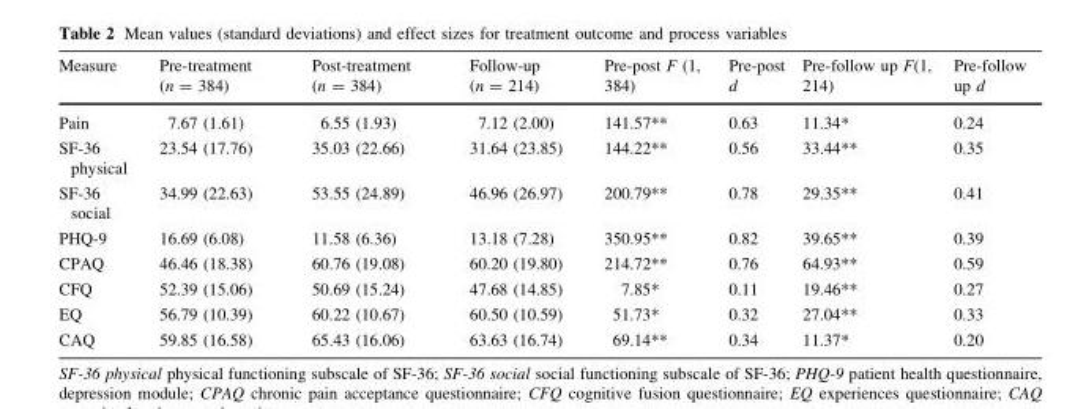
<table><thead><tr><td>Measure</td><td>Pre-treatment (n = 384)</td><td>Post-treatment (n = 384)</td><td>Follow-up (n = 214)</td><td>Pre-post F (1, 384)</td><td>Pre-post d</td><td>Pre-follow up F(1, 214)</td><td>Pre-follow up d</td></tr></thead><tbody><tr><td>Pain</td><td>7.67 (1.61)</td><td>6.55 (1.93)</td><td>7.12 (2.00)</td><td>141.57**</td><td>0.63</td><td>11.34*</td><td>0.24</td></tr><tr><td>SF-36 physical</td><td>23.54 (17.76)</td><td>35.03 (22.66)</td><td>31.64 (23.85)</td><td>144.22**</td><td>0.56</td><td>33.44**</td><td>0.35</td></tr><tr><td>SF-36 social</td><td>34.99 (22.63)</td><td>53.55 (24.89)</td><td>46.96 (26.97)</td><td>200.79**</td><td>0.78</td><td>29.35**</td><td>0.41</td></tr><tr><td>PHQ-9</td><td>16.69 (6.08)</td><td>11.58 (6.36)</td><td>13.18 (7.28)</td><td>350.95**</td><td>0.82</td><td>39.65**</td><td>0.39</td></tr><tr><td>CPAQ</td><td>46.46 (18.38)</td><td>60.76 (19.08)</td><td>60.20 (19.80)</td><td>214.72**</td><td>0.76</td><td>64.93**</td><td>0.59</td></tr><tr><td>CFQ</td><td>52.39 (15.06)</td><td>50.69 (15.24)</td><td>47.68 (14.85)</td><td>7.85*</td><td>0.11</td><td>19.46**</td><td>0.27</td></tr><tr><td>EQ</td><td>56.79 (10.39)</td><td>60.22 (10.67)</td><td>60.50 (10.59)</td><td>51.73*</td><td>0.32</td><td>27.04**</td><td>0.33</td></tr><tr><td>CAQ</td><td>59.85 (16.58)</td><td>65.43 (16.06)</td><td>63.63 (16.74)</td><td>69.14**</td><td>0.34</td><td>11.37*</td><td>0.20</td></tr></tbody></table>